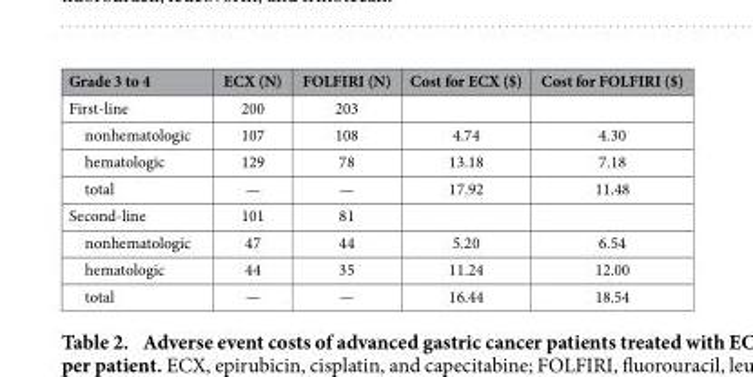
<table><thead><tr><td>Grade 3 to 4</td><td>ECX (N)</td><td>FOLFIRI (N)</td><td>Cost for ECX ($)</td><td>Cost for FOLFIRI ($)</td></tr></thead><tbody><tr><td>First-line</td><td>200</td><td>203</td><td></td><td></td></tr><tr><td>nonhematologic</td><td>107</td><td>108</td><td>4.74</td><td>4.30</td></tr><tr><td>hematologic</td><td>129</td><td>78</td><td>13.18</td><td>7.18</td></tr><tr><td>total</td><td>—</td><td>—</td><td>17.92</td><td>11.48</td></tr><tr><td>Second-line</td><td>101</td><td>81</td><td></td><td></td></tr><tr><td>nonhematologic</td><td>47</td><td>44</td><td>5.20</td><td>6.54</td></tr><tr><td>hematologic</td><td>44</td><td>35</td><td>11.24</td><td>12.00</td></tr><tr><td>total</td><td>—</td><td>—</td><td>16.44</td><td>18.54</td></tr></tbody></table>